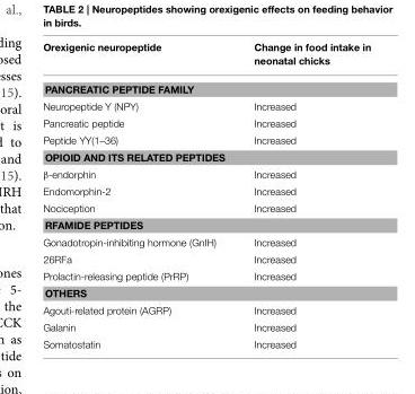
<table><thead><tr><td>Orexigenic neuropeptide</td><td>Change in food intake in neonatal chicks</td></tr></thead><tbody><tr><td colspan="2">PANCREATIC PEPTIDE FAMILY</td></tr><tr><td>Neuropeptide Y (NPY)</td><td>Increased</td></tr><tr><td>Pancreatic peptide</td><td>Increased</td></tr><tr><td>Peptide YY(1–36)</td><td>Increased</td></tr><tr><td colspan="2">OPIOID AND ITS RELATED PEPTIDES</td></tr><tr><td>β-endorphin</td><td>Increased</td></tr><tr><td>Endomorphin-2</td><td>Increased</td></tr><tr><td>Nociception</td><td>Increased</td></tr><tr><td colspan="2">RFAMIDE PEPTIDES</td></tr><tr><td>Gonadotropin-inhibiting hormone (GnIH)</td><td>Increased</td></tr><tr><td>26RFa</td><td>Increased</td></tr><tr><td>Prolactin-releasing peptide (PrRP)</td><td>Increased</td></tr><tr><td colspan="2">OTHERS</td></tr><tr><td>Agouti-related protein (AGRP)</td><td>Increased</td></tr><tr><td>Galanin</td><td>Increased</td></tr><tr><td>Somatostatin</td><td>Increased</td></tr></tbody></table>